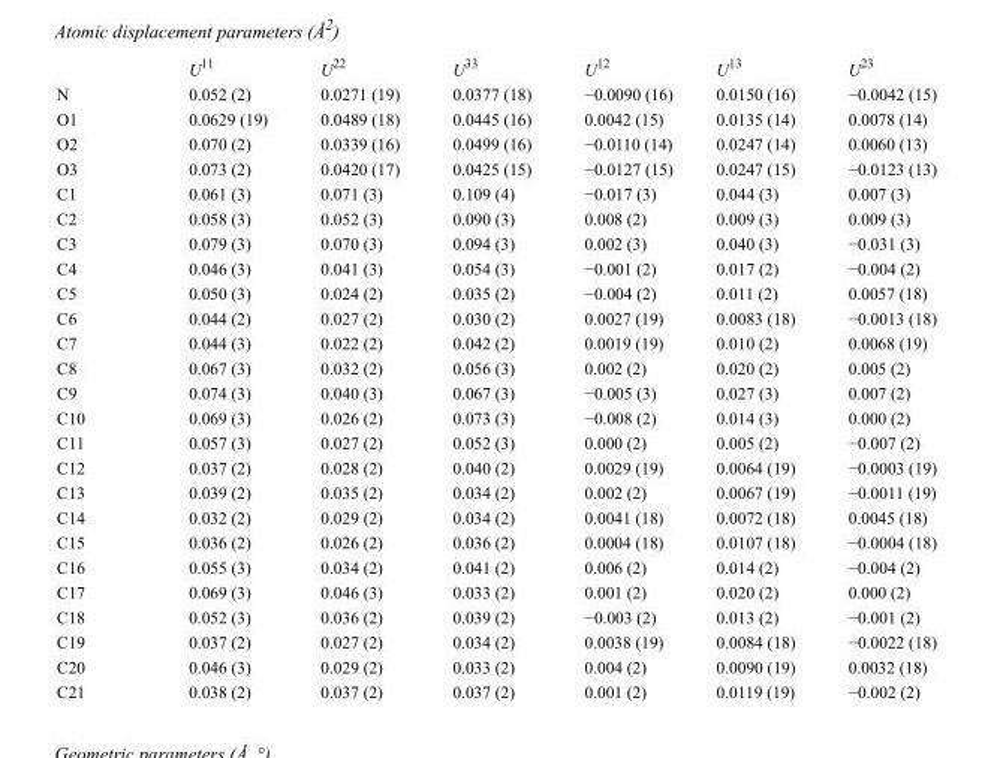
<table><thead><tr><td></td><td>U<sup>11</sup></td><td>U<sup>22</sup></td><td>U<sup>33</sup></td><td>U<sup>12</sup></td><td>U<sup>13</sup></td><td>U<sup>23</sup></td></tr></thead><tbody><tr><td>N</td><td>0.052 (2)</td><td>0.0271 (19)</td><td>0.0377 (18)</td><td>−0.0090 (16)</td><td>0.0150 (16)</td><td>−0.0042 (15)</td></tr><tr><td>O1</td><td>0.0629 (19)</td><td>0.0489 (18)</td><td>0.0445 (16)</td><td>0.0042 (15)</td><td>0.0135 (14)</td><td>0.0078 (14)</td></tr><tr><td>O2</td><td>0.070 (2)</td><td>0.0339 (16)</td><td>0.0499 (16)</td><td>−0.0110 (14)</td><td>0.0247 (14)</td><td>0.0060 (13)</td></tr><tr><td>O3</td><td>0.073 (2)</td><td>0.0420 (17)</td><td>0.0425 (15)</td><td>−0.0127 (15)</td><td>0.0247 (15)</td><td>−0.0123 (13)</td></tr><tr><td>C1</td><td>0.061 (3)</td><td>0.071 (3)</td><td>0.109 (4)</td><td>−0.017 (3)</td><td>0.044 (3)</td><td>0.007 (3)</td></tr><tr><td>C2</td><td>0.058 (3)</td><td>0.052 (3)</td><td>0.090 (3)</td><td>0.008 (2)</td><td>0.009 (3)</td><td>0.009 (3)</td></tr><tr><td>C3</td><td>0.079 (3)</td><td>0.070 (3)</td><td>0.094 (3)</td><td>0.002 (3)</td><td>0.040 (3)</td><td>−0.031 (3)</td></tr><tr><td>C4</td><td>0.046 (3)</td><td>0.041 (3)</td><td>0.054 (3)</td><td>−0.001 (2)</td><td>0.017 (2)</td><td>−0.004 (2)</td></tr><tr><td>C5</td><td>0.050 (3)</td><td>0.024 (2)</td><td>0.035 (2)</td><td>−0.004 (2)</td><td>0.011 (2)</td><td>0.0057 (18)</td></tr><tr><td>C6</td><td>0.044 (2)</td><td>0.027 (2)</td><td>0.030 (2)</td><td>0.0027 (19)</td><td>0.0083 (18)</td><td>−0.0013 (18)</td></tr><tr><td>C7</td><td>0.044 (3)</td><td>0.022 (2)</td><td>0.042 (2)</td><td>0.0019 (19)</td><td>0.010 (2)</td><td>0.0068 (19)</td></tr><tr><td>C8</td><td>0.067 (3)</td><td>0.032 (2)</td><td>0.056 (3)</td><td>0.002 (2)</td><td>0.020 (2)</td><td>0.005 (2)</td></tr><tr><td>C9</td><td>0.074 (3)</td><td>0.040 (3)</td><td>0.067 (3)</td><td>−0.005 (3)</td><td>0.027 (3)</td><td>0.007 (2)</td></tr><tr><td>C10</td><td>0.069 (3)</td><td>0.026 (2)</td><td>0.073 (3)</td><td>−0.008 (2)</td><td>0.014 (3)</td><td>0.000 (2)</td></tr><tr><td>C11</td><td>0.057 (3)</td><td>0.027 (2)</td><td>0.052 (3)</td><td>0.000 (2)</td><td>0.005 (2)</td><td>−0.007 (2)</td></tr><tr><td>C12</td><td>0.037 (2)</td><td>0.028 (2)</td><td>0.040 (2)</td><td>0.0029 (19)</td><td>0.0064 (19)</td><td>−0.0003 (19)</td></tr><tr><td>C13</td><td>0.039 (2)</td><td>0.035 (2)</td><td>0.034 (2)</td><td>0.002 (2)</td><td>0.0067 (19)</td><td>−0.0011 (19)</td></tr><tr><td>C14</td><td>0.032 (2)</td><td>0.029 (2)</td><td>0.034 (2)</td><td>0.0041 (18)</td><td>0.0072 (18)</td><td>0.0045 (18)</td></tr><tr><td>C15</td><td>0.036 (2)</td><td>0.026 (2)</td><td>0.036 (2)</td><td>0.0004 (18)</td><td>0.0107 (18)</td><td>−0.0004 (18)</td></tr><tr><td>C16</td><td>0.055 (3)</td><td>0.034 (2)</td><td>0.041 (2)</td><td>0.006 (2)</td><td>0.014 (2)</td><td>−0.004 (2)</td></tr><tr><td>C17</td><td>0.069 (3)</td><td>0.046 (3)</td><td>0.033 (2)</td><td>0.001 (2)</td><td>0.020 (2)</td><td>0.000 (2)</td></tr><tr><td>C18</td><td>0.052 (3)</td><td>0.036 (2)</td><td>0.039 (2)</td><td>−0.003 (2)</td><td>0.013 (2)</td><td>−0.001 (2)</td></tr><tr><td>C19</td><td>0.037 (2)</td><td>0.027 (2)</td><td>0.034 (2)</td><td>0.0038 (19)</td><td>0.0084 (18)</td><td>−0.0022 (18)</td></tr><tr><td>C20</td><td>0.046 (3)</td><td>0.029 (2)</td><td>0.033 (2)</td><td>0.004 (2)</td><td>0.0090 (19)</td><td>0.0032 (18)</td></tr><tr><td>C21</td><td>0.038 (2)</td><td>0.037 (2)</td><td>0.037 (2)</td><td>0.001 (2)</td><td>0.0119 (19)</td><td>−0.002 (2)</td></tr></tbody></table>